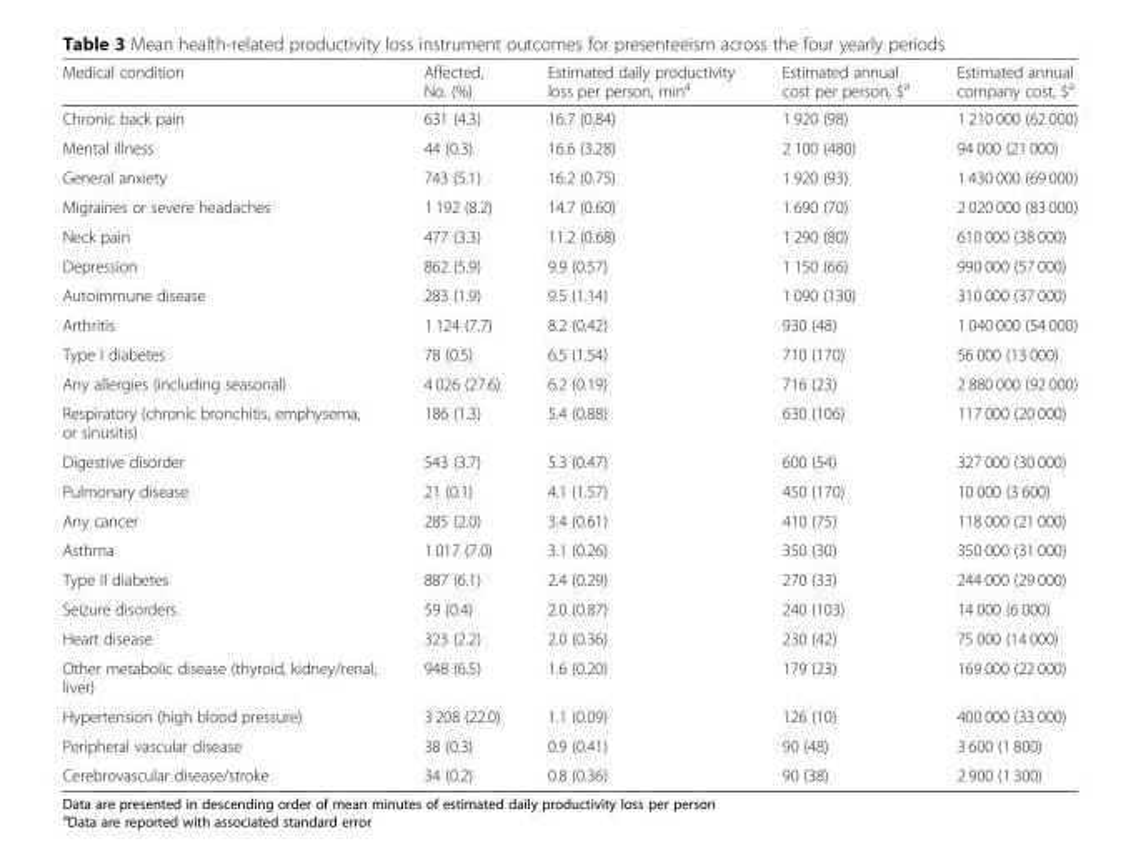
<table><thead><tr><td>Medical condition</td><td>Affected, No. (%)</td><td>Estimated daily productivity loss per person, min<sup>a</sup></td><td>Estimated annual cost per person, $<sup>a</sup></td><td>Estimated annual company cost, $<sup>a</sup></td></tr></thead><tbody><tr><td>Chronic back pain</td><td>631 (4.3)</td><td>16.7 (0.84)</td><td>1 920 (98)</td><td>1 210 000 (62 000)</td></tr><tr><td>Mental illness</td><td>44 (0.3)</td><td>16.6 (3.28)</td><td>2 100 (480)</td><td>94 000 (21 000)</td></tr><tr><td>General anxiety</td><td>743 (5.1)</td><td>16.2 (0.75)</td><td>1 920 (93)</td><td>1 430 000 (69 000)</td></tr><tr><td>Migraines or severe headaches</td><td>1 192 (8.2)</td><td>14.7 (0.60)</td><td>1 690 (70)</td><td>2 020 000 (83 000)</td></tr><tr><td>Neck pain</td><td>477 (3.3)</td><td>11.2 (0.68)</td><td>1 290 (80)</td><td>610 000 (38 000)</td></tr><tr><td>Depression</td><td>862 (5.9)</td><td>9.9 (0.57)</td><td>1 150 (66)</td><td>990 000 (57 000)</td></tr><tr><td>Autoimmune disease</td><td>283 (1.9)</td><td>9.5 (1.14)</td><td>1 090 (130)</td><td>310 000 (37 000)</td></tr><tr><td>Arthritis</td><td>1 124 (7.7)</td><td>8.2 (0.42)</td><td>930 (48)</td><td>1 040 000 (54 000)</td></tr><tr><td>Type I diabetes</td><td>78 (0.5)</td><td>6.5 (1.54)</td><td>710 (170)</td><td>56 000 (13 000)</td></tr><tr><td>Any allergies (including seasonal)</td><td>4 026 (27.6)</td><td>6.2 (0.19)</td><td>716 (23)</td><td>2 880 000 (92 000)</td></tr><tr><td>Respiratory (chronic bronchitis, emphysema, or sinusitis)</td><td>186 (1.3)</td><td>5.4 (0.88)</td><td>630 (106)</td><td>117 000 (20 000)</td></tr><tr><td>Digestive disorder</td><td>543 (3.7)</td><td>5.3 (0.47)</td><td>600 (54)</td><td>327 000 (30 000)</td></tr><tr><td>Pulmonary disease</td><td>21 (0.1)</td><td>4.1 (1.57)</td><td>450 (170)</td><td>10 000 (3 600)</td></tr><tr><td>Any cancer</td><td>285 (2.0)</td><td>3.4 (0.61)</td><td>410 (75)</td><td>118 000 (21 000)</td></tr><tr><td>Asthma</td><td>1 017 (7.0)</td><td>3.1 (0.26)</td><td>350 (30)</td><td>350 000 (31 000)</td></tr><tr><td>Type II diabetes</td><td>887 (6.1)</td><td>2.4 (0.29)</td><td>270 (33)</td><td>244 000 (29 000)</td></tr><tr><td>Seizure disorders</td><td>59 (0.4)</td><td>2.0 (0.87)</td><td>240 (103)</td><td>14 000 (6 000)</td></tr><tr><td>Heart disease</td><td>323 (2.2)</td><td>2.0 (0.36)</td><td>230 (42)</td><td>75 000 (14 000)</td></tr><tr><td>Other metabolic disease (thyroid, kidney/renal, liver)</td><td>948 (6.5)</td><td>1.6 (0.20)</td><td>179 (23)</td><td>169 000 (22 000)</td></tr><tr><td>Hypertension (high blood pressure)</td><td>3 208 (22.0)</td><td>1.1 (0.09)</td><td>126 (10)</td><td>400 000 (33 000)</td></tr><tr><td>Peripheral vascular disease</td><td>38 (0.3)</td><td>0.9 (0.41)</td><td>90 (48)</td><td>3 600 (1 800)</td></tr><tr><td>Cerebrovascular disease/stroke</td><td>34 (0.2)</td><td>0.8 (0.36)</td><td>90 (38)</td><td>2 900 (1 300)</td></tr></tbody></table>